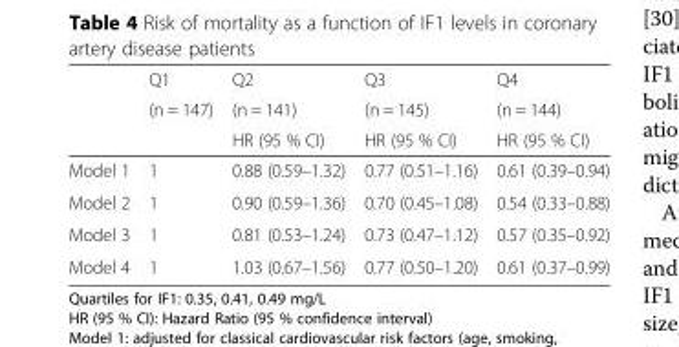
<table><thead><tr><td rowspan="3"></td><td rowspan="3">Q1 (n = 147)</td><td rowspan="3">Q2 (n = 141) HR (95 % CI)</td><td rowspan="3">Q3 (n = 145) HR (95 % CI)</td><td rowspan="3">Q4 (n = 144) HR (95 % CI)</td></tr><tr></tr><tr></tr></thead><tbody><tr><td>Model 1</td><td>1</td><td>0.88 (0.59–1.32)</td><td>0.77 (0.51–1.16)</td><td>0.61 (0.39–0.94)</td></tr><tr><td>Model 2</td><td>1</td><td>0.90 (0.59–1.36)</td><td>0.70 (0.45–1.08)</td><td>0.54 (0.33–0.88)</td></tr><tr><td>Model 3</td><td>1</td><td>0.81 (0.53–1.24)</td><td>0.73 (0.47–1.12)</td><td>0.57 (0.35–0.92)</td></tr><tr><td>Model 4</td><td>1</td><td>1.03 (0.67–1.56)</td><td>0.77 (0.50–1.20)</td><td>0.61 (0.37–0.99)</td></tr></tbody></table>